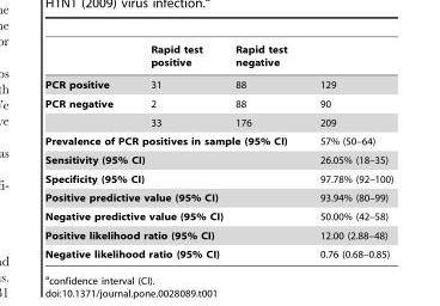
<table><thead><tr><td></td><td>Rapid test positive</td><td>Rapid test negative</td><td></td></tr></thead><tbody><tr><td>PCR positive</td><td>31</td><td>88</td><td>129</td></tr><tr><td rowspan="2">PCR negative</td><td>2</td><td>88</td><td>90</td></tr><tr><td>33</td><td>176</td><td>209</td></tr><tr><td colspan="3">Prevalence of PCR positives in sample (95% CI)</td><td>57% (50–64)</td></tr><tr><td colspan="3">Sensitivity (95% CI)</td><td>26.05% (18–35)</td></tr><tr><td colspan="3">Specificity (95% CI)</td><td>97.78% (92–100)</td></tr><tr><td colspan="3">Positive predictive value (95% CI)</td><td>93.94% (80–99)</td></tr><tr><td colspan="3">Negative predictive value (95% CI)</td><td>50.00% (42–58)</td></tr><tr><td colspan="3">Positive likelihood ratio (95% CI)</td><td>12.00 (2.88–48)</td></tr><tr><td colspan="3">Negative likelihood ratio (95% CI)</td><td>0.76 (0.68–0.85)</td></tr></tbody></table>